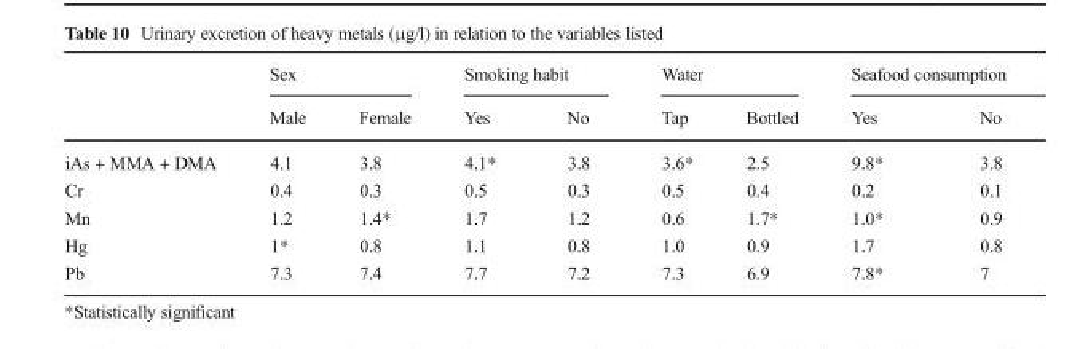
<table><thead><tr><td rowspan="2"></td><td colspan="2">Sex</td><td colspan="2">Smoking habit</td><td colspan="2">Water</td><td colspan="2">Seafood consumption</td></tr><tr><td>Male</td><td>Female</td><td>Yes</td><td>No</td><td>Tap</td><td>Bottled</td><td>Yes</td><td>No</td></tr></thead><tbody><tr><td>iAs + MMA + DMA</td><td>4.1</td><td>3.8</td><td>4.1*</td><td>3.8</td><td>3.6*</td><td>2.5</td><td>9.8*</td><td>3.8</td></tr><tr><td>Cr</td><td>0.4</td><td>0.3</td><td>0.5</td><td>0.3</td><td>0.5</td><td>0.4</td><td>0.2</td><td>0.1</td></tr><tr><td>Mn</td><td>1.2</td><td>1.4*</td><td>1.7</td><td>1.2</td><td>0.6</td><td>1.7*</td><td>1.0*</td><td>0.9</td></tr><tr><td>Hg</td><td>1*</td><td>0.8</td><td>1.1</td><td>0.8</td><td>1.0</td><td>0.9</td><td>1.7</td><td>0.8</td></tr><tr><td>Pb</td><td>7.3</td><td>7.4</td><td>7.7</td><td>7.2</td><td>7.3</td><td>6.9</td><td>7.8*</td><td>7</td></tr></tbody></table>